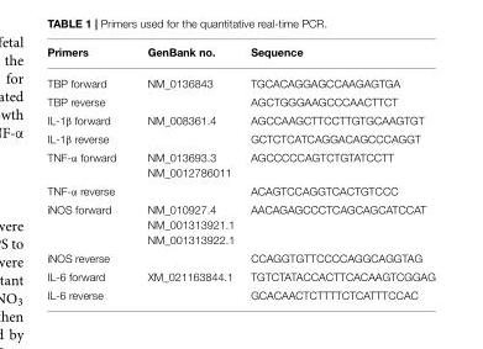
<table><thead><tr><td>Primers</td><td>GenBank no.</td><td>Sequence</td></tr></thead><tbody><tr><td>TBP forward</td><td>NM_0136843</td><td>TGCACAGGAGCCAAGAGTGA</td></tr><tr><td>TBP reverse</td><td></td><td>AGCTGGGAAGCCCAACTTCT</td></tr><tr><td>IL-1β forward</td><td>NM_008361.4</td><td>AGCCAAGCTTCCTTGTGCAAGTGT</td></tr><tr><td>IL-1β reverse</td><td></td><td>GCTCTCATCAGGACAGCCCAGGT</td></tr><tr><td>TNF-α forward</td><td>NM_013693.3 NM_0012786011</td><td>AGCCCCCAGTCTGTATCCTT</td></tr><tr><td>TNF-α reverse</td><td></td><td>ACAGTCCAGGTCACTGTCCC</td></tr><tr><td>iNOS forward</td><td>NM_010927.4 NM_001313921.1 NM_001313922.1</td><td>AACAGAGCCCTCAGCAGCATCCAT</td></tr><tr><td>iNOS reverse</td><td></td><td>CCAGGTGTTCCCCAGGCAGGTAG</td></tr><tr><td>IL-6 forward</td><td>XM_021163844.1</td><td>TGTCTATACCACTTCACAAGTCGGAG</td></tr><tr><td>IL-6 reverse</td><td></td><td>GCACAACTCTTTTCTCATTTCCAC</td></tr></tbody></table>